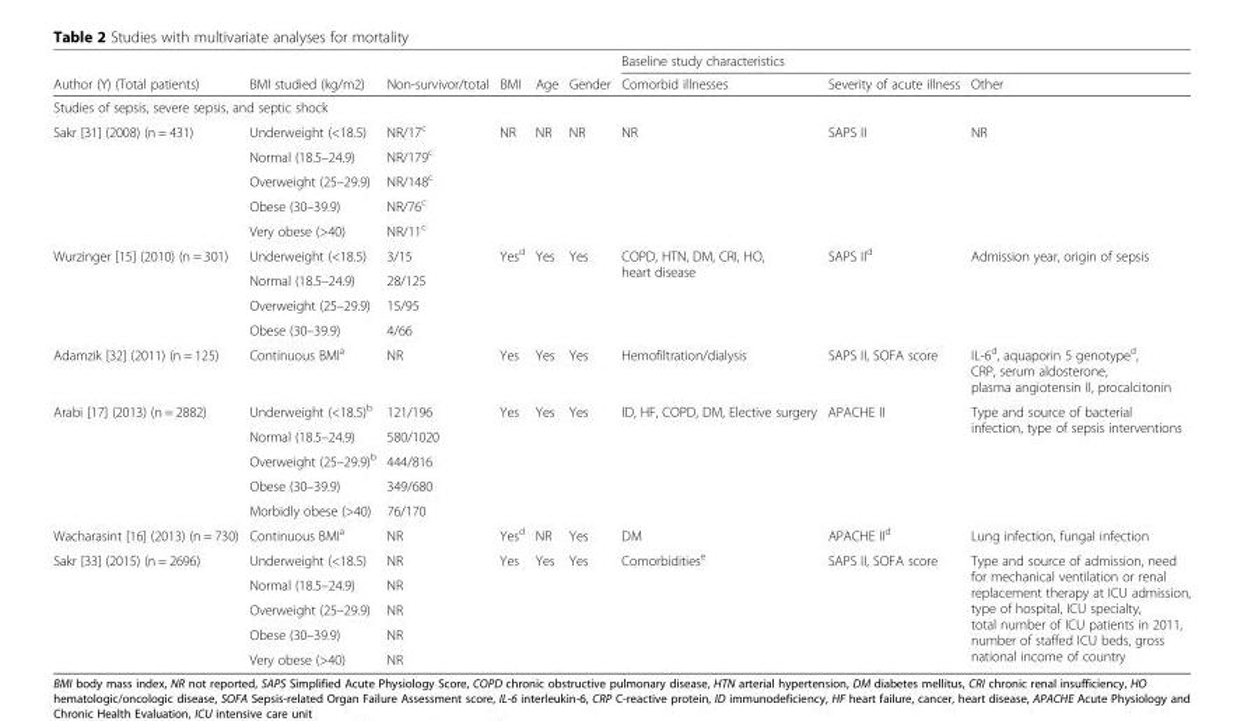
<table><thead><tr><td rowspan="2">Author (Y) (Total patients)</td><td rowspan="2">BMI studied (kg/m2)</td><td rowspan="2">Non-survivor/total</td><td rowspan="2">BMI</td><td rowspan="2">Age</td><td rowspan="2">Gender</td><td colspan="3">Baseline study characteristics</td></tr><tr><td>Comorbid illnesses</td><td>Severity of acute illness</td><td>Other</td></tr></thead><tbody><tr><td colspan="9">Studies of sepsis, severe sepsis, and septic shock</td></tr><tr><td rowspan="5">Sakr [31] (2008) (n = 431)</td><td>Underweight (&lt;18.5)</td><td>NR/17<sup>c</sup></td><td rowspan="5">NR</td><td rowspan="5">NR</td><td rowspan="5">NR</td><td rowspan="5">NR</td><td rowspan="5">SAPS II</td><td rowspan="5">NR</td></tr><tr><td>Normal (18.5–24.9)</td><td>NR/179<sup>c</sup></td></tr><tr><td>Overweight (25–29.9)</td><td>NR/148<sup>c</sup></td></tr><tr><td>Obese (30–39.9)</td><td>NR/76<sup>c</sup></td></tr><tr><td>Very obese (&gt;40)</td><td>NR/11<sup>c</sup></td></tr><tr><td rowspan="4">Wurzinger [15] (2010) (n = 301)</td><td>Underweight (&lt;18.5)</td><td>3/15</td><td rowspan="4">Yes<sup>d</sup></td><td rowspan="4">Yes</td><td rowspan="4">Yes</td><td rowspan="4">COPD, HTN, DM, CRI, HO, heart disease</td><td rowspan="4">SAPS II<sup>d</sup></td><td rowspan="4">Admission year, origin of sepsis</td></tr><tr><td>Normal (18.5–24.9)</td><td>28/125</td></tr><tr><td>Overweight (25–29.9)</td><td>15/95</td></tr><tr><td>Obese (30–39.9)</td><td>4/66</td></tr><tr><td>Adamzik [32] (2011) (n = 125)</td><td>Continuous BMI<sup>a</sup></td><td>NR</td><td>Yes</td><td>Yes</td><td>Yes</td><td>Hemofiltration/dialysis</td><td>SAPS II, SOFA score</td><td>IL-6<sup>d</sup>, aquaporin 5 genotype<sup>d</sup>, CRP, serum aldosterone, plasma angiotensin II, procalcitonin</td></tr><tr><td rowspan="5">Arabi [17] (2013) (n = 2882)</td><td>Underweight (&lt;18.5)<sup>b</sup></td><td>121/196</td><td rowspan="5">Yes</td><td rowspan="5">Yes</td><td rowspan="5">Yes</td><td rowspan="5">ID, HF, COPD, DM, Elective surgery</td><td rowspan="5">APACHE II</td><td rowspan="5">Type and source of bacterial infection, type of sepsis interventions</td></tr><tr><td>Normal (18.5–24.9)</td><td>580/1020</td></tr><tr><td>Overweight (25–29.9)<sup>b</sup></td><td>444/816</td></tr><tr><td>Obese (30–39.9)</td><td>349/680</td></tr><tr><td>Morbidly obese (&gt;40)</td><td>76/170</td></tr><tr><td>Wacharasint [16] (2013) (n = 730)</td><td>Continuous BMI<sup>a</sup></td><td>NR</td><td>Yes<sup>d</sup></td><td>NR</td><td>Yes</td><td>DM</td><td>APACHE II<sup>d</sup></td><td>Lung infection, fungal infection</td></tr><tr><td rowspan="5">Sakr [33] (2015) (n = 2696)</td><td>Underweight (&lt;18.5)</td><td>NR</td><td rowspan="5">Yes</td><td rowspan="5">Yes</td><td rowspan="5">Yes</td><td rowspan="5">Comorbidities<sup>e</sup></td><td rowspan="5">SAPS II, SOFA score</td><td rowspan="5">Type and source of admission, need for mechanical ventilation or renal replacement therapy at ICU admission, type of hospital, ICU specialty, total number of ICU patients in 2011, number of staffed ICU beds, gross national income of country</td></tr><tr><td>Normal (18.5–24.9)</td><td>NR</td></tr><tr><td>Overweight (25–29.9)</td><td>NR</td></tr><tr><td>Obese (30–39.9)</td><td>NR</td></tr><tr><td>Very obese (&gt;40)</td><td>NR</td></tr></tbody></table>